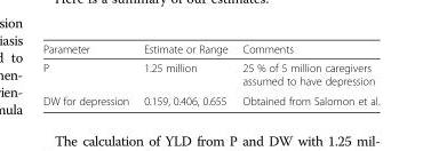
<table><thead><tr><td>Parameter</td><td>Estimate or Range</td><td>Comments</td></tr></thead><tbody><tr><td>P</td><td>1.25 million</td><td>25 % of 5 million caregivers assumed to have depression</td></tr><tr><td>DW for depression</td><td>0.159, 0.406, 0.655</td><td>Obtained from Salomon et al.</td></tr></tbody></table>